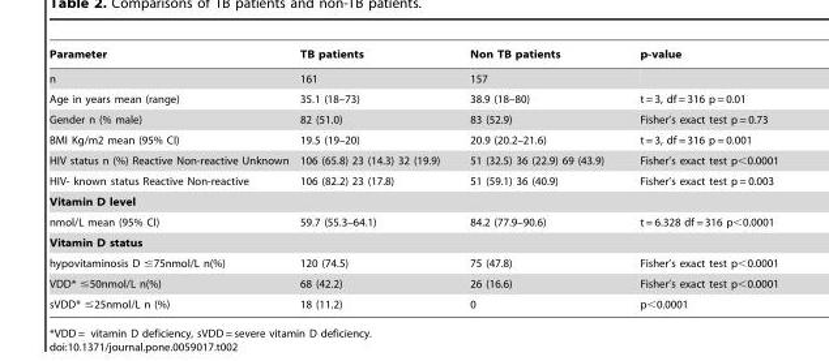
<table><thead><tr><td>Parameter</td><td>TB patients</td><td>Non TB patients</td><td>p-value</td></tr></thead><tbody><tr><td>n</td><td>161</td><td>157</td><td></td></tr><tr><td>Age in years mean (range)</td><td>35.1 (18–73)</td><td>38.9 (18–80)</td><td>t = 3, df = 316 p = 0.01</td></tr><tr><td>Gender n (% male)</td><td>82 (51.0)</td><td>83 (52.9)</td><td>Fisher’s exact test p = 0.73</td></tr><tr><td>BMI Kg/m2 mean (95% CI)</td><td>19.5 (19–20)</td><td>20.9 (20.2–21.6)</td><td>t = 3, df = 316 p = 0.001</td></tr><tr><td>HIV status n (%) Reactive Non-reactive Unknown</td><td>106 (65.8) 23 (14.3) 32 (19.9)</td><td>51 (32.5) 36 (22.9) 69 (43.9)</td><td>Fisher’s exact test p&lt;0.0001</td></tr><tr><td>HIV- known status Reactive Non-reactive</td><td>106 (82.2) 23 (17.8)</td><td>51 (59.1) 36 (40.9)</td><td>Fisher’s exact test p = 0.003</td></tr><tr><td colspan="4">Vitamin D level</td></tr><tr><td>nmol/L mean (95% CI)</td><td>59.7 (55.3–64.1)</td><td>84.2 (77.9–90.6)</td><td>t = 6.328 df = 316 p&lt;0.0001</td></tr><tr><td colspan="4">Vitamin D status</td></tr><tr><td>hypovitaminosis D ≤75nmol/L n(%)</td><td>120 (74.5)</td><td>75 (47.8)</td><td>Fisher’s exact test p&lt;0.0001</td></tr><tr><td>VDD* ≤50nmol/L n(%)</td><td>68 (42.2)</td><td>26 (16.6)</td><td>Fisher’s exact test p&lt;0.0001</td></tr><tr><td>sVDD* ≤25nmol/L n (%)</td><td>18 (11.2)</td><td>0</td><td>p&lt;0.0001</td></tr></tbody></table>